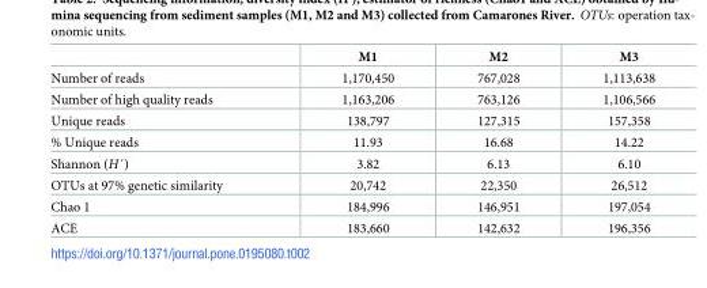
<table><thead><tr><td></td><td>M1</td><td>M2</td><td>M3</td></tr></thead><tbody><tr><td>Number of reads</td><td>1,170,450</td><td>767,028</td><td>1,113,638</td></tr><tr><td>Number of high quality reads</td><td>1,163,206</td><td>763,126</td><td>1,106,566</td></tr><tr><td>Unique reads</td><td>138,797</td><td>127,315</td><td>157,358</td></tr><tr><td>% Unique reads</td><td>11.93</td><td>16.68</td><td>14.22</td></tr><tr><td>Shannon (H´)</td><td>3.82</td><td>6.13</td><td>6.10</td></tr><tr><td>OTUs at 97% genetic similarity</td><td>20,742</td><td>22,350</td><td>26,512</td></tr><tr><td>Chao 1</td><td>184,996</td><td>146,951</td><td>197,054</td></tr><tr><td>ACE</td><td>183,660</td><td>142,632</td><td>196,356</td></tr></tbody></table>